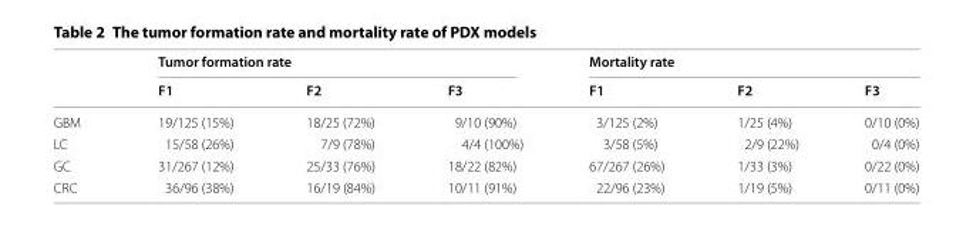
<table><thead><tr><td rowspan="2"></td><td colspan="3">Tumor formation rate</td><td colspan="3">Mortality rate</td></tr><tr><td>F1</td><td>F2</td><td>F3</td><td>F1</td><td>F2</td><td>F3</td></tr></thead><tbody><tr><td>GBM</td><td>19/125 (15%)</td><td>18/25 (72%)</td><td>9/10 (90%)</td><td>3/125 (2%)</td><td>1/25 (4%)</td><td>0/10 (0%)</td></tr><tr><td>LC</td><td>15/58 (26%)</td><td>7/9 (78%)</td><td>4/4 (100%)</td><td>3/58 (5%)</td><td>2/9 (22%)</td><td>0/4 (0%)</td></tr><tr><td>GC</td><td>31/267 (12%)</td><td>25/33 (76%)</td><td>18/22 (82%)</td><td>67/267 (26%)</td><td>1/33 (3%)</td><td>0/22 (0%)</td></tr><tr><td>CRC</td><td>36/96 (38%)</td><td>16/19 (84%)</td><td>10/11 (91%)</td><td>22/96 (23%)</td><td>1/19 (5%)</td><td>0/11 (0%)</td></tr></tbody></table>